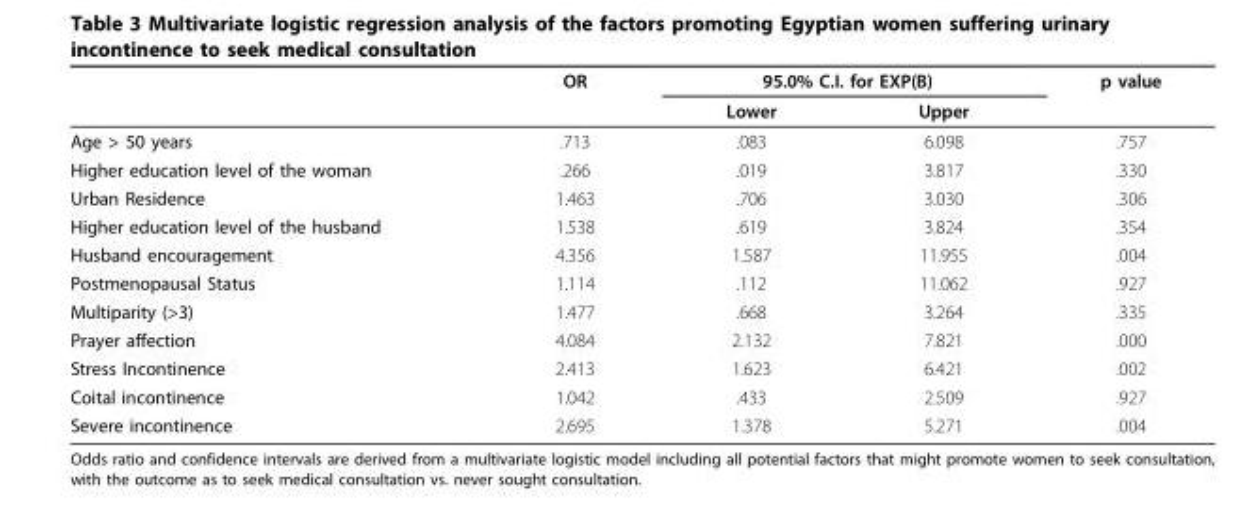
<table><thead><tr><td rowspan="2"></td><td rowspan="2">OR</td><td colspan="2">95.0% C.I. for EXP(B)</td><td rowspan="2">p value</td></tr><tr><td>Lower</td><td>Upper</td></tr></thead><tbody><tr><td>Age &gt; 50 years</td><td>.713</td><td>.083</td><td>6.098</td><td>.757</td></tr><tr><td>Higher education level of the woman</td><td>.266</td><td>.019</td><td>3.817</td><td>.330</td></tr><tr><td>Urban Residence</td><td>1.463</td><td>.706</td><td>3.030</td><td>.306</td></tr><tr><td>Higher education level of the husband</td><td>1.538</td><td>.619</td><td>3.824</td><td>.354</td></tr><tr><td>Husband encouragement</td><td>4.356</td><td>1.587</td><td>11.955</td><td>.004</td></tr><tr><td>Postmenopausal Status</td><td>1.114</td><td>.112</td><td>11.062</td><td>.927</td></tr><tr><td>Multiparity (&gt;3)</td><td>1.477</td><td>.668</td><td>3.264</td><td>.335</td></tr><tr><td>Prayer affection</td><td>4.084</td><td>2.132</td><td>7.821</td><td>.000</td></tr><tr><td>Stress Incontinence</td><td>2.413</td><td>1.623</td><td>6.421</td><td>.002</td></tr><tr><td>Coital incontinence</td><td>1.042</td><td>.433</td><td>2.509</td><td>.927</td></tr><tr><td>Severe incontinence</td><td>2.695</td><td>1.378</td><td>5.271</td><td>.004</td></tr></tbody></table>